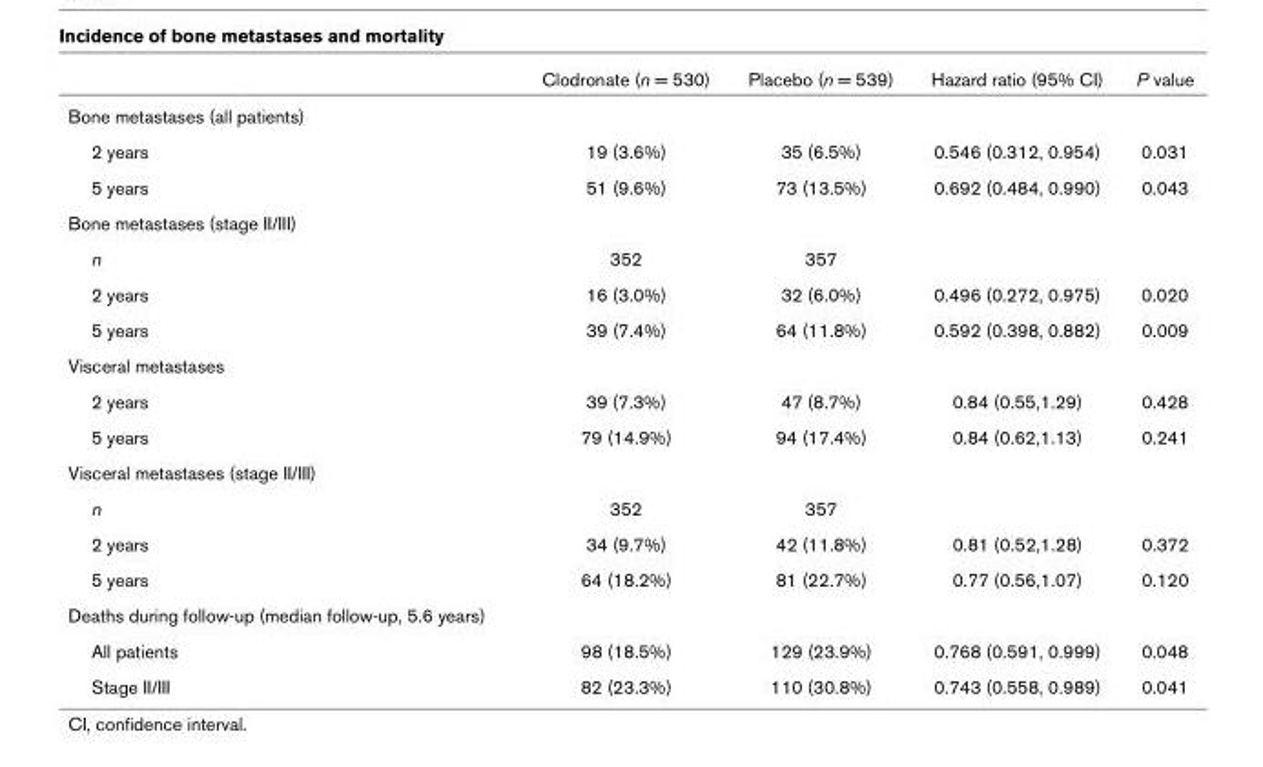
<table><thead><tr><td></td><td>Clodronate (n = 530)</td><td>Placebo (n = 539)</td><td>Hazard ratio (95% CI)</td><td>P value</td></tr></thead><tbody><tr><td colspan="5">Bone metastases (all patients)</td></tr><tr><td>2 years</td><td>19 (3.6%)</td><td>35 (6.5%)</td><td>0.546 (0.312, 0.954)</td><td>0.031</td></tr><tr><td>5 years</td><td>51 (9.6%)</td><td>73 (13.5%)</td><td>0.692 (0.484, 0.990)</td><td>0.043</td></tr><tr><td colspan="5">Bone metastases (stage II/III)</td></tr><tr><td>n</td><td>352</td><td>357</td><td></td><td></td></tr><tr><td>2 years</td><td>16 (3.0%)</td><td>32 (6.0%)</td><td>0.496 (0.272, 0.975)</td><td>0.020</td></tr><tr><td>5 years</td><td>39 (7.4%)</td><td>64 (11.8%)</td><td>0.592 (0.398, 0.882)</td><td>0.009</td></tr><tr><td colspan="5">Visceral metastases</td></tr><tr><td>2 years</td><td>39 (7.3%)</td><td>47 (8.7%)</td><td>0.84 (0.55,1.29)</td><td>0.428</td></tr><tr><td>5 years</td><td>79 (14.9%)</td><td>94 (17.4%)</td><td>0.84 (0.62,1.13)</td><td>0.241</td></tr><tr><td colspan="5">Visceral metastases (stage II/III)</td></tr><tr><td>n</td><td>352</td><td>357</td><td></td><td></td></tr><tr><td>2 years</td><td>34 (9.7%)</td><td>42 (11.8%)</td><td>0.81 (0.52,1.28)</td><td>0.372</td></tr><tr><td>5 years</td><td>64 (18.2%)</td><td>81 (22.7%)</td><td>0.77 (0.56,1.07)</td><td>0.120</td></tr><tr><td colspan="5">Deaths during follow-up (median follow-up, 5.6 years)</td></tr><tr><td>All patients</td><td>98 (18.5%)</td><td>129 (23.9%)</td><td>0.768 (0.591, 0.999)</td><td>0.048</td></tr><tr><td>Stage II/III</td><td>82 (23.3%)</td><td>110 (30.8%)</td><td>0.743 (0.558, 0.989)</td><td>0.041</td></tr></tbody></table>